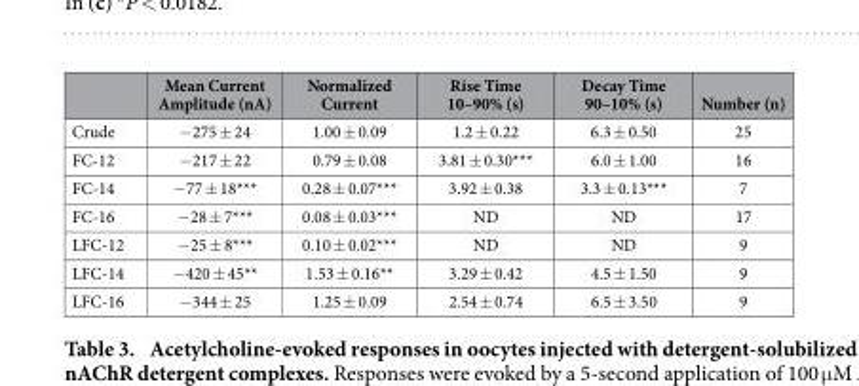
<table><thead><tr><td></td><td>Mean Current Amplitude (nA)</td><td>Normalized Current</td><td>Rise Time 10–90% (s)</td><td>Decay Time 90–10% (s)</td><td>Number (n)</td></tr></thead><tbody><tr><td>Crude</td><td>− 275 ± 24</td><td>1.00 ± 0.09</td><td>1.2 ± 0.22</td><td>6.3 ± 0.50</td><td>25</td></tr><tr><td>FC-12</td><td>− 217 ± 22</td><td>0.79 ± 0.08</td><td>3.81 ± 0.30***</td><td>6.0 ± 1.00</td><td>16</td></tr><tr><td>FC-14</td><td>− 77 ± 18***</td><td>0.28 ± 0.07***</td><td>3.92 ± 0.38</td><td>3.3 ± 0.13***</td><td>7</td></tr><tr><td>FC-16</td><td>− 28 ± 7***</td><td>0.08 ± 0.03***</td><td>ND</td><td>ND</td><td>17</td></tr><tr><td>LFC-12</td><td>− 25 ± 8***</td><td>0.10 ± 0.02***</td><td>ND</td><td>ND</td><td>9</td></tr><tr><td>LFC-14</td><td>− 420 ± 45**</td><td>1.53 ± 0.16**</td><td>3.29 ± 0.42</td><td>4.5 ± 1.50</td><td>9</td></tr><tr><td>LFC-16</td><td>− 344 ± 25</td><td>1.25 ± 0.09</td><td>2.54 ± 0.74</td><td>6.5 ± 3.50</td><td>9</td></tr></tbody></table>